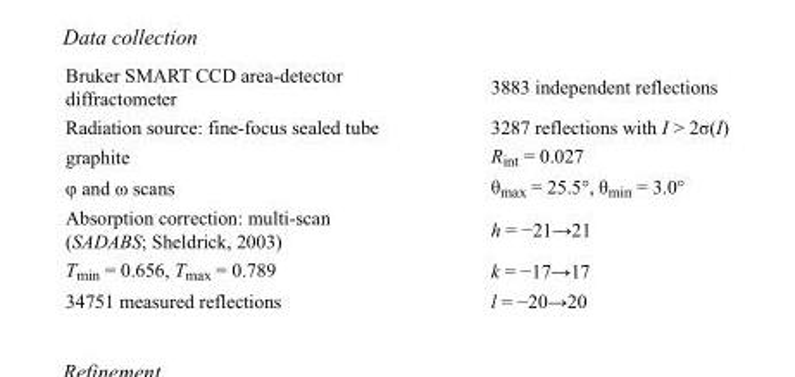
<table><tbody><tr><td>Bruker SMART CCD area-detector diffractometer</td><td>3883 independent reflections</td></tr><tr><td>Radiation source: fine-focus sealed tube</td><td>3287 reflections with I &gt; 2σ(I)</td></tr><tr><td>graphite</td><td>R<sub>int</sub> = 0.027</td></tr><tr><td>φ and ω scans</td><td>θ<sub>max</sub> = 25.5°, θ<sub>min</sub> = 3.0°</td></tr><tr><td>Absorption correction: multi-scan (SADABS; Sheldrick, 2003)</td><td>h = −21→21</td></tr><tr><td>T<sub>min</sub> = 0.656, T<sub>max</sub> = 0.789</td><td>k = −17→17</td></tr><tr><td>34751 measured reflections</td><td>l = −20→20</td></tr></tbody></table>